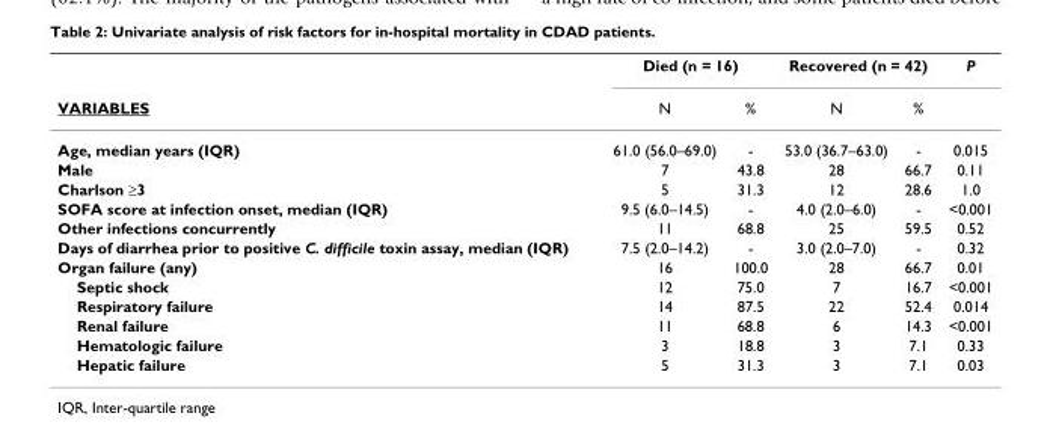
<table><thead><tr><td rowspan="2">VARIABLES</td><td colspan="2">Died (n = 16)</td><td colspan="2">Recovered (n = 42)</td><td rowspan="2">P</td></tr><tr><td>N</td><td>%</td><td>N</td><td>%</td></tr></thead><tbody><tr><td>Age, median years (IQR)</td><td>61.0 (56.0–69.0)</td><td>-</td><td>53.0 (36.7–63.0)</td><td>-</td><td>0.015</td></tr><tr><td>Male</td><td>7</td><td>43.8</td><td>28</td><td>66.7</td><td>0.11</td></tr><tr><td>Charlson ≥3</td><td>5</td><td>31.3</td><td>12</td><td>28.6</td><td>1.0</td></tr><tr><td>SOFA score at infection onset, median (IQR)</td><td>9.5 (6.0–14.5)</td><td>-</td><td>4.0 (2.0–6.0)</td><td>-</td><td>&lt;0.001</td></tr><tr><td>Other infections concurrently</td><td>11</td><td>68.8</td><td>25</td><td>59.5</td><td>0.52</td></tr><tr><td>Days of diarrhea prior to positive C. difficile toxin assay, median (IQR)</td><td>7.5 (2.0–14.2)</td><td>-</td><td>3.0 (2.0–7.0)</td><td>-</td><td>0.32</td></tr><tr><td>Organ failure (any)</td><td>16</td><td>100.0</td><td>28</td><td>66.7</td><td>0.01</td></tr><tr><td>Septic shock</td><td>12</td><td>75.0</td><td>7</td><td>16.7</td><td>&lt;0.001</td></tr><tr><td>Respiratory failure</td><td>14</td><td>87.5</td><td>22</td><td>52.4</td><td>0.014</td></tr><tr><td>Renal failure</td><td>11</td><td>68.8</td><td>6</td><td>14.3</td><td>&lt;0.001</td></tr><tr><td>Hematologic failure</td><td>3</td><td>18.8</td><td>3</td><td>7.1</td><td>0.33</td></tr><tr><td>Hepatic failure</td><td>5</td><td>31.3</td><td>3</td><td>7.1</td><td>0.03</td></tr></tbody></table>